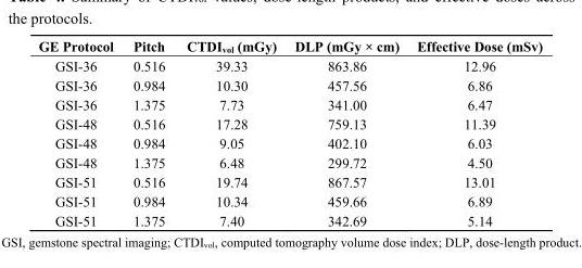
<table><thead><tr><td>GE Protocol</td><td>Pitch</td><td>CTDI<sub>vol</sub> (mGy)</td><td>DLP (mGy × cm)</td><td>Effective Dose (mSv)</td></tr></thead><tbody><tr><td>GSI-36</td><td>0.516</td><td>39.33</td><td>863.86</td><td>12.96</td></tr><tr><td>GSI-36</td><td>0.984</td><td>10.30</td><td>457.56</td><td>6.86</td></tr><tr><td>GSI-36</td><td>1.375</td><td>7.73</td><td>341.00</td><td>6.47</td></tr><tr><td>GSI-48</td><td>0.516</td><td>17.28</td><td>759.13</td><td>11.39</td></tr><tr><td>GSI-48</td><td>0.984</td><td>9.05</td><td>402.10</td><td>6.03</td></tr><tr><td>GSI-48</td><td>1.375</td><td>6.48</td><td>299.72</td><td>4.50</td></tr><tr><td>GSI-51</td><td>0.516</td><td>19.74</td><td>867.57</td><td>13.01</td></tr><tr><td>GSI-51</td><td>0.984</td><td>10.34</td><td>459.66</td><td>6.89</td></tr><tr><td>GSI-51</td><td>1.375</td><td>7.40</td><td>342.69</td><td>5.14</td></tr></tbody></table>